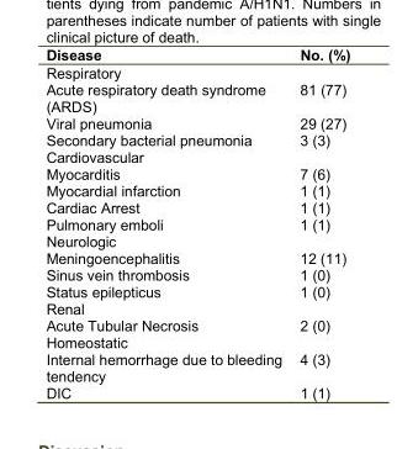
<table><thead><tr><td>Disease</td><td>No. (%)</td></tr></thead><tbody><tr><td colspan="2">Respiratory</td></tr><tr><td>Acute respiratory death syndrome (ARDS)</td><td>81 (77)</td></tr><tr><td>Viral pneumonia</td><td>29 (27)</td></tr><tr><td>Secondary bacterial pneumonia</td><td>3 (3)</td></tr><tr><td colspan="2">Cardiovascular</td></tr><tr><td>Myocarditis</td><td>7 (6)</td></tr><tr><td>Myocardial infarction</td><td>1 (1)</td></tr><tr><td>Cardiac Arrest</td><td>1 (1)</td></tr><tr><td>Pulmonary emboli</td><td>1 (1)</td></tr><tr><td colspan="2">Neurologic</td></tr><tr><td>Meningoencephalitis</td><td>12 (11)</td></tr><tr><td>Sinus vein thrombosis</td><td>1 (0)</td></tr><tr><td>Status epilepticus</td><td>1 (0)</td></tr><tr><td colspan="2">Renal</td></tr><tr><td>Acute Tubular Necrosis</td><td>2 (0)</td></tr><tr><td colspan="2">Homeostatic</td></tr><tr><td>Internal hemorrhage due to bleeding tendency</td><td>4 (3)</td></tr><tr><td>DIC</td><td>1 (1)</td></tr></tbody></table>